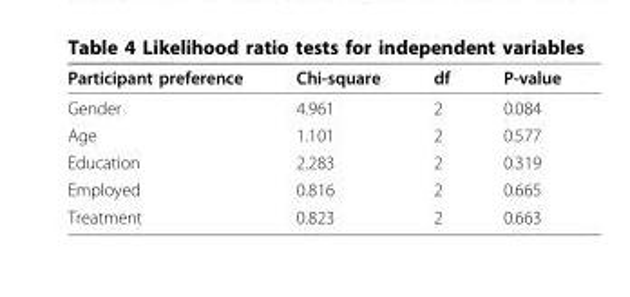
<table><thead><tr><td>Participant preference</td><td>Chi-square</td><td>df</td><td>P-value</td></tr></thead><tbody><tr><td>Gender</td><td>4.961</td><td>2</td><td>0.084</td></tr><tr><td>Age</td><td>1.101</td><td>2</td><td>0.577</td></tr><tr><td>Education</td><td>2.283</td><td>2</td><td>0.319</td></tr><tr><td>Employed</td><td>0.816</td><td>2</td><td>0.665</td></tr><tr><td>Treatment</td><td>0.823</td><td>2</td><td>0.663</td></tr></tbody></table>